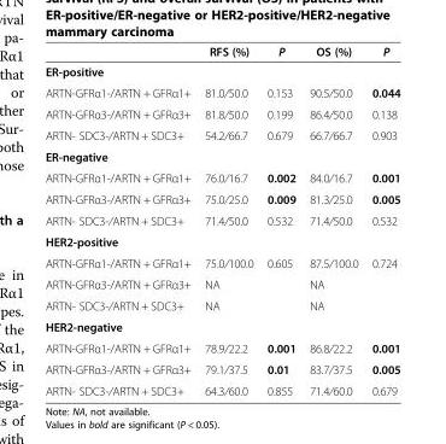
<table><thead><tr><td></td><td>RFS (%)</td><td>P</td><td>OS (%)</td><td>P</td></tr></thead><tbody><tr><td colspan="5">ER-positive</td></tr><tr><td>ARTN-GFRα1-/ARTN + GFRα1+</td><td>81.0/50.0</td><td>0.153</td><td>90.5/50.0</td><td>0.044</td></tr><tr><td>ARTN-GFRα3-/ARTN + GFRα3+</td><td>81.8/50.0</td><td>0.199</td><td>86.4/50.0</td><td>0.138</td></tr><tr><td>ARTN- SDC3-/ARTN + SDC3+</td><td>54.2/66.7</td><td>0.679</td><td>66.7/66.7</td><td>0.903</td></tr><tr><td colspan="5">ER-negative</td></tr><tr><td>ARTN-GFRα1-/ARTN + GFRα1+</td><td>76.0/16.7</td><td>0.002</td><td>84.0/16.7</td><td>0.001</td></tr><tr><td>ARTN-GFRα3-/ARTN + GFRα3+</td><td>75.0/25.0</td><td>0.009</td><td>81.3/25.0</td><td>0.005</td></tr><tr><td>ARTN- SDC3-/ARTN + SDC3+</td><td>71.4/50.0</td><td>0.532</td><td>71.4/50.0</td><td>0.532</td></tr><tr><td colspan="5">HER2-positive</td></tr><tr><td>ARTN-GFRα1-/ARTN + GFRα1+</td><td>75.0/100.0</td><td>0.605</td><td>87.5/100.0</td><td>0.724</td></tr><tr><td>ARTN-GFRα3-/ARTN + GFRα3+</td><td>NA</td><td></td><td>NA</td><td></td></tr><tr><td>ARTN- SDC3-/ARTN + SDC3+</td><td>NA</td><td></td><td>NA</td><td></td></tr><tr><td colspan="5">HER2-negative</td></tr><tr><td>ARTN-GFRα1-/ARTN + GFRα1+</td><td>78.9/22.2</td><td>0.001</td><td>86.8/22.2</td><td>0.001</td></tr><tr><td>ARTN-GFRα3-/ARTN + GFRα3+</td><td>79.1/37.5</td><td>0.01</td><td>83.7/37.5</td><td>0.005</td></tr><tr><td>ARTN- SDC3-/ARTN + SDC3+</td><td>64.3/60.0</td><td>0.855</td><td>71.4/60.0</td><td>0.679</td></tr></tbody></table>